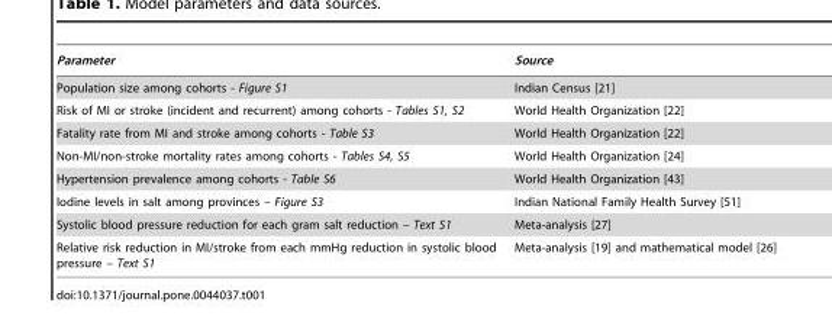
<table><thead><tr><td>Parameter</td><td>Source</td></tr></thead><tbody><tr><td>Population size among cohorts - Figure S1</td><td>Indian Census [21]</td></tr><tr><td>Risk of MI or stroke (incident and recurrent) among cohorts - Tables S1, S2</td><td>World Health Organization [22]</td></tr><tr><td>Fatality rate from MI and stroke among cohorts - Table S3</td><td>World Health Organization [22]</td></tr><tr><td>Non-MI/non-stroke mortality rates among cohorts - Tables S4, S5</td><td>World Health Organization [24]</td></tr><tr><td>Hypertension prevalence among cohorts - Table S6</td><td>World Health Organization [43]</td></tr><tr><td>Iodine levels in salt among provinces – Figure S3</td><td>Indian National Family Health Survey [51]</td></tr><tr><td>Systolic blood pressure reduction for each gram salt reduction – Text S1</td><td>Meta-analysis [27]</td></tr><tr><td>Relative risk reduction in MI/stroke from each mmHg reduction in systolic blood pressure – Text S1</td><td>Meta-analysis [19] and mathematical model [26]</td></tr></tbody></table>